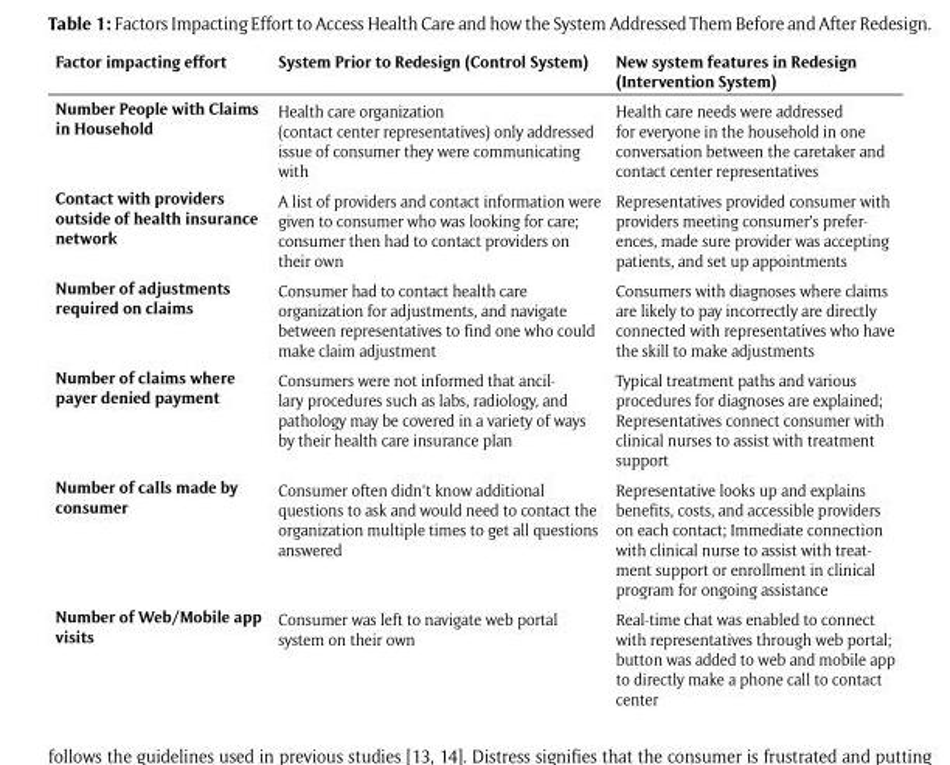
<table><thead><tr><td>Factor impacting effort</td><td>System Prior to Redesign (Control System)</td><td>New system features in Redesign (Intervention System)</td></tr></thead><tbody><tr><td>Number People with Claims in Household</td><td>Health care organization (contact center representatives) only addressed issue of consumer they were communicating with</td><td>Health care needs were addressed for everyone in the household in one conversation between the caretaker and contact center representatives</td></tr><tr><td>Contact with providers outside of health insurance network</td><td>A list of providers and contact information were given to consumer who was looking for care; consumer then had to contact providers on their own</td><td>Representatives provided consumer with providers meeting consumer’s prefer- ences, made sure provider was accepting patients, and set up appointments</td></tr><tr><td>Number of adjustments required on claims</td><td>Consumer had to contact health care organization for adjustments, and navigate between representatives to find one who could make claim adjustment</td><td>Consumers with diagnoses where claims are likely to pay incorrectly are directly connected with representatives who have the skill to make adjustments</td></tr><tr><td>Number of claims where payer denied payment</td><td>Consumers were not informed that ancil- lary procedures such as labs, radiology, and pathology may be covered in a variety of ways by their health care insurance plan</td><td>Typical treatment paths and various procedures for diagnoses are explained; Representatives connect consumer with clinical nurses to assist with treatment support</td></tr><tr><td>Number of calls made by consumer</td><td>Consumer often didn’t know additional questions to ask and would need to contact the organization multiple times to get all questions answered</td><td>Representative looks up and explains benefits, costs, and accessible providers on each contact; Immediate connection with clinical nurse to assist with treat- ment support or enrollment in clinical program for ongoing assistance</td></tr><tr><td>Number of Web/Mobile app visits</td><td>Consumer was left to navigate web portal system on their own</td><td>Real-time chat was enabled to connect with representatives through web portal; button was added to web and mobile app to directly make a phone call to contact center</td></tr></tbody></table>